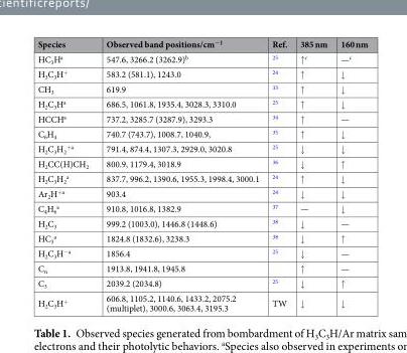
<table><thead><tr><td>Species</td><td>Observed band positions/cm<sup>−1</sup></td><td>Ref.</td><td>385 nm</td><td>160 nm</td></tr></thead><tbody><tr><td>HC<sub>3</sub>H<sup>a</sup></td><td>547.6, 3266.2 (3262.9)<sup>b</sup></td><td><sup>25</sup></td><td>↑<sup>c</sup></td><td>—<sup>c</sup></td></tr><tr><td>H<sub>3</sub>C<sub>3</sub>H<sup>+</sup></td><td>583.2 (581.1), 1243.0</td><td><sup>24</sup></td><td>↑</td><td>↓</td></tr><tr><td>CH<sub>3</sub></td><td>619.9</td><td><sup>33</sup></td><td>↑</td><td>↓</td></tr><tr><td>H<sub>2</sub>C<sub>3</sub>H<sup>a</sup></td><td>686.5, 1061.8, 1935.4, 3028.3, 3310.0</td><td><sup>25</sup></td><td>↑</td><td>↓</td></tr><tr><td>HCCH<sup>a</sup></td><td>737.2, 3285.7 (3287.9), 3293.3</td><td><sup>34</sup></td><td>↑</td><td>—</td></tr><tr><td>C<sub>6</sub>H<sub>4</sub></td><td>740.7 (743.7), 1008.7, 1040.9,</td><td><sup>35</sup></td><td>↑</td><td>↓</td></tr><tr><td>H<sub>2</sub>C<sub>3</sub>H<sub>2</sub> <sup>+a</sup></td><td>791.4, 874.4, 1307.3, 2929.0, 3020.8</td><td><sup>25</sup></td><td>↓</td><td>↓</td></tr><tr><td>H<sub>2</sub>CC(H)CH<sub>2</sub></td><td>800.9, 1179.4, 3018.9</td><td><sup>36</sup></td><td>↓</td><td>↑</td></tr><tr><td>H<sub>2</sub>C<sub>3</sub>H<sub>2</sub> <sup>a</sup></td><td>837.7, 996.2, 1390.6, 1955.3, 1998.4, 3000.1</td><td><sup>24</sup></td><td>↑</td><td>↓</td></tr><tr><td>Ar<sub>2</sub>H<sup>+a</sup></td><td>903.4</td><td><sup>24</sup></td><td>↓</td><td>↓</td></tr><tr><td>C<sub>4</sub>H<sub>6</sub> <sup>a</sup></td><td>910.8, 1016.8, 1382.9</td><td><sup>37</sup></td><td>—</td><td>↓</td></tr><tr><td>H<sub>2</sub>C<sub>3</sub></td><td>999.2 (1003.0), 1446.8 (1448.6)</td><td><sup>38</sup></td><td>↓</td><td>—</td></tr><tr><td>HC<sub>3</sub> <sup>a</sup></td><td>1824.8 (1832.6), 3238.3</td><td><sup>38</sup></td><td>↓</td><td>↑</td></tr><tr><td>H<sub>2</sub>C<sub>3</sub>H<sup>−a</sup></td><td>1856.4</td><td><sup>25</sup></td><td>↓</td><td>—</td></tr><tr><td>C<sub>n</sub></td><td>1913.8, 1941.8, 1945.8</td><td></td><td>↑</td><td>—</td></tr><tr><td>C<sub>3</sub></td><td>2039.2 (2034.8)</td><td><sup>25</sup></td><td>↓</td><td>↑</td></tr><tr><td>H<sub>2</sub>C<sub>3</sub>H<sup>+</sup></td><td>606.8, 1105.2, 1140.6, 1433.2, 2075.2 (multiplet), 3000.6, 3063.4, 3195.3</td><td>TW</td><td>↓</td><td>↓</td></tr></tbody></table>